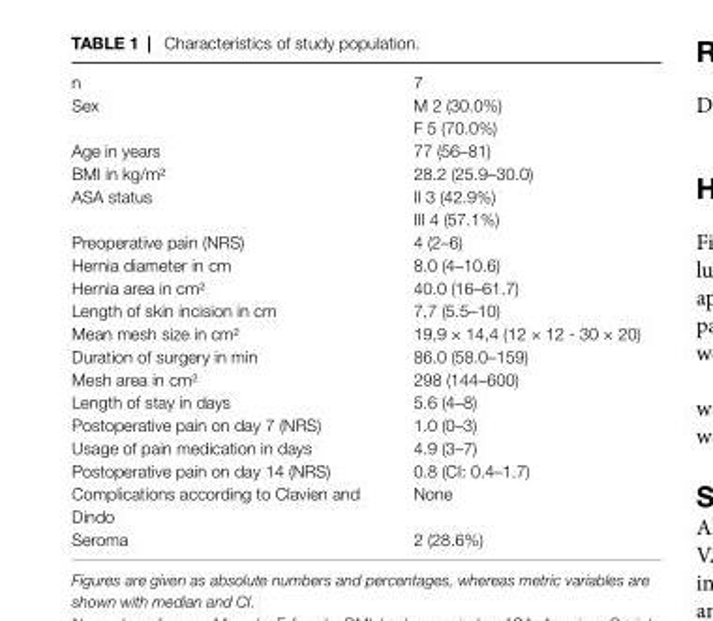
<table><tbody><tr><td>n</td><td>7</td></tr><tr><td>Sex</td><td>M 2 (30.0%) F 5 (70.0%)</td></tr><tr><td>Age in years</td><td>77 (56–81)</td></tr><tr><td>BMI in kg/m²</td><td>28.2 (25.9–30.0)</td></tr><tr><td>ASA status</td><td>II 3 (42.9%) III 4 (57.1%)</td></tr><tr><td>Preoperative pain (NRS)</td><td>4 (2–6)</td></tr><tr><td>Hernia diameter in cm</td><td>8.0 (4–10.6)</td></tr><tr><td>Hernia area in cm²</td><td>40.0 (16–61.7)</td></tr><tr><td>Length of skin incision in cm</td><td>7,7 (5.5–10)</td></tr><tr><td>Mean mesh size in cm²</td><td>19,9 × 14,4 (12 × 12 - 30 × 20)</td></tr><tr><td>Duration of surgery in min</td><td>86.0 (58.0–159)</td></tr><tr><td>Mesh area in cm²</td><td>298 (144–600)</td></tr><tr><td>Length of stay in days</td><td>5.6 (4–8)</td></tr><tr><td>Postoperative pain on day 7 (NRS)</td><td>1.0 (0–3)</td></tr><tr><td>Usage of pain medication in days</td><td>4.9 (3–7)</td></tr><tr><td>Postoperative pain on day 14 (NRS)</td><td>0.8 (CI: 0.4–1.7)</td></tr><tr><td>Complications according to Clavien and Dindo</td><td>None</td></tr><tr><td>Seroma</td><td>2 (28.6%)</td></tr></tbody></table>